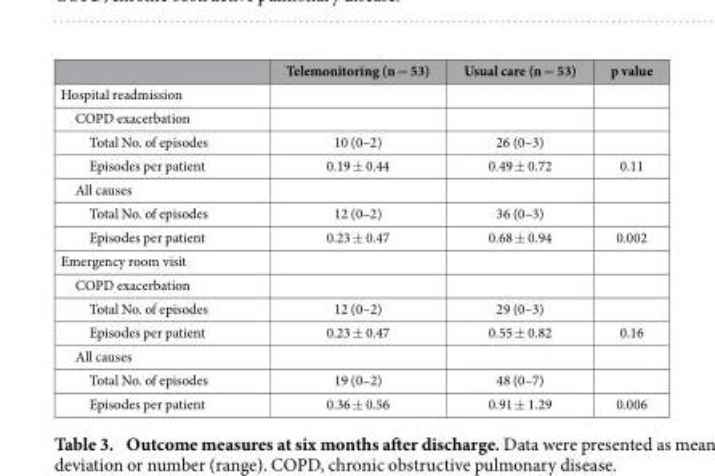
<table><thead><tr><td></td><td>Telemonitoring (n = 53)</td><td>Usual care (n = 53)</td><td>p value</td></tr></thead><tbody><tr><td colspan="4">Hospital readmission</td></tr><tr><td colspan="4">COPD exacerbation</td></tr><tr><td>Total No. of episodes</td><td>10 (0–2)</td><td>26 (0–3)</td><td></td></tr><tr><td>Episodes per patient</td><td>0.19 ± 0.44</td><td>0.49 ± 0.72</td><td>0.11</td></tr><tr><td colspan="4">All causes</td></tr><tr><td>Total No. of episodes</td><td>12 (0–2)</td><td>36 (0–3)</td><td></td></tr><tr><td>Episodes per patient</td><td>0.23 ± 0.47</td><td>0.68 ± 0.94</td><td>0.002</td></tr><tr><td colspan="4">Emergency room visit</td></tr><tr><td colspan="4">COPD exacerbation</td></tr><tr><td>Total No. of episodes</td><td>12 (0–2)</td><td>29 (0–3)</td><td></td></tr><tr><td>Episodes per patient</td><td>0.23 ± 0.47</td><td>0.55 ± 0.82</td><td>0.16</td></tr><tr><td colspan="4">All causes</td></tr><tr><td>Total No. of episodes</td><td>19 (0–2)</td><td>48 (0–7)</td><td></td></tr><tr><td>Episodes per patient</td><td>0.36 ± 0.56</td><td>0.91 ± 1.29</td><td>0.006</td></tr></tbody></table>